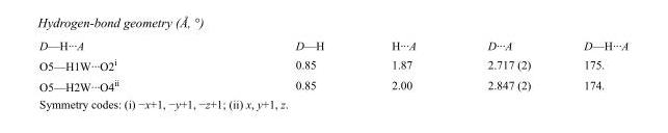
<table><tbody><tr><td>D—H···A</td><td>D—H</td><td>H···A</td><td>D···A</td><td>D—H···A</td></tr><tr><td>O5—H1W···O2<sup>i</sup></td><td>0.85</td><td>1.87</td><td>2.717 (2)</td><td>175.</td></tr><tr><td>O5—H2W···O4<sup>ii</sup></td><td>0.85</td><td>2.00</td><td>2.847 (2)</td><td>174.</td></tr></tbody></table>